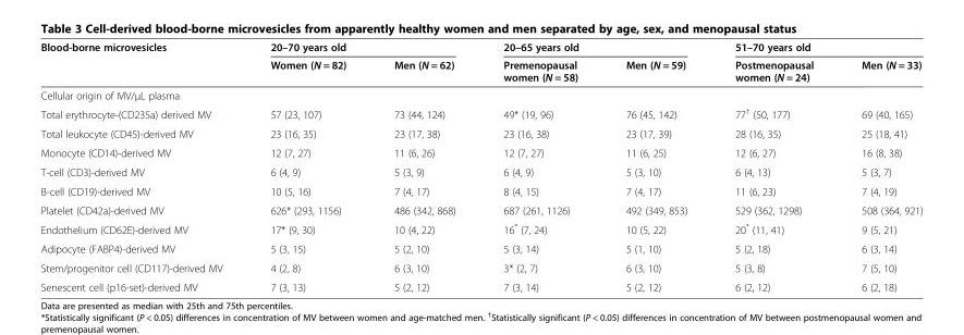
<table><thead><tr><td rowspan="2">Blood-borne microvesicles</td><td colspan="2">20–70 years old</td><td colspan="2">20–65 years old</td><td colspan="2">51–70 years old</td></tr><tr><td>Women (N = 82)</td><td>Men (N = 62)</td><td>Premenopausal women (N = 58)</td><td>Men (N = 59)</td><td>Postmenopausal women (N = 24)</td><td>Men (N = 33)</td></tr></thead><tbody><tr><td colspan="7">Cellular origin of MV/μL plasma</td></tr><tr><td>Total erythrocyte-(CD235a) derived MV</td><td>57 (23, 107)</td><td>73 (44, 124)</td><td>49* (19, 96)</td><td>76 (45, 142)</td><td>77<sup>†</sup> (50, 177)</td><td>69 (40, 165)</td></tr><tr><td>Total leukocyte (CD45)-derived MV</td><td>23 (16, 35)</td><td>23 (17, 38)</td><td>23 (16, 38)</td><td>23 (17, 39)</td><td>28 (16, 35)</td><td>25 (18, 41)</td></tr><tr><td>Monocyte (CD14)-derived MV</td><td>12 (7, 27)</td><td>11 (6, 26)</td><td>12 (7, 27)</td><td>11 (6, 25)</td><td>12 (6, 27)</td><td>16 (8, 38)</td></tr><tr><td>T-cell (CD3)-derived MV</td><td>6 (4, 9)</td><td>5 (3, 9)</td><td>6 (4, 9)</td><td>5 (3, 10)</td><td>6 (4, 13)</td><td>5 (3, 7)</td></tr><tr><td>B-cell (CD19)-derived MV</td><td>10 (5, 16)</td><td>7 (4, 17)</td><td>8 (4, 15)</td><td>7 (4, 17)</td><td>11 (6, 23)</td><td>7 (4, 19)</td></tr><tr><td>Platelet (CD42a)-derived MV</td><td>626* (293, 1156)</td><td>486 (342, 868)</td><td>687 (261, 1126)</td><td>492 (349, 853)</td><td>529 (362, 1298)</td><td>508 (364, 921)</td></tr><tr><td>Endothelium (CD62E)-derived MV</td><td>17* (9, 30)</td><td>10 (4, 22)</td><td>16* (7, 24)</td><td>10 (5, 22)</td><td>20* (11, 41)</td><td>9 (5, 21)</td></tr><tr><td>Adipocyte (FABP4)-derived MV</td><td>5 (3, 15)</td><td>5 (2, 10)</td><td>5 (3, 14)</td><td>5 (1, 10)</td><td>5 (2, 18)</td><td>6 (3, 14)</td></tr><tr><td>Stem/progenitor cell (CD117)-derived MV</td><td>4 (2, 8)</td><td>6 (3, 10)</td><td>3* (2, 7)</td><td>6 (3, 10)</td><td>5 (3, 8)</td><td>7 (5, 10)</td></tr><tr><td>Senescent cell (p16-set)-derived MV</td><td>7 (3, 13)</td><td>5 (2, 12)</td><td>7 (3, 14)</td><td>5 (2, 12)</td><td>6 (2, 12)</td><td>6 (2, 18)</td></tr></tbody></table>